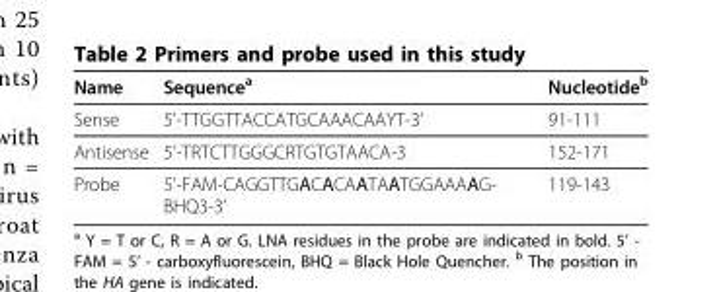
<table><thead><tr><td>Name</td><td>Sequence<sup>a</sup></td><td>Nucleotide<sup>b</sup></td></tr></thead><tbody><tr><td>Sense</td><td>5’-TTGGTTACCATGCAAACAAYT-3’</td><td>91-111</td></tr><tr><td>Antisense</td><td>5’-TRTCTTGGGCRTGTGTAACA-3</td><td>152-171</td></tr><tr><td>Probe</td><td>5’-FAM-CAGGTTGACACAATAATGGAAAAG- BHQ3-3’</td><td>119-143</td></tr></tbody></table>